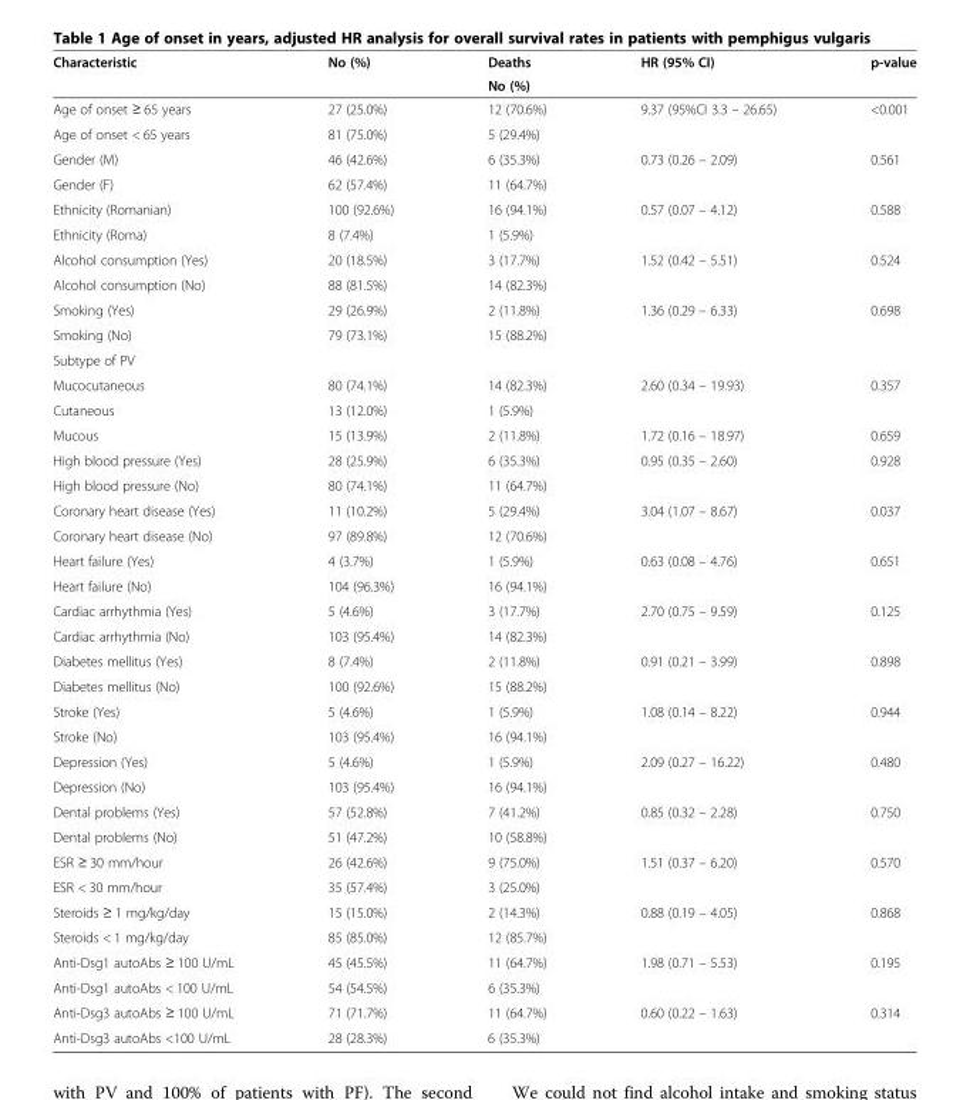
<table><thead><tr><td rowspan="2">Characteristic</td><td rowspan="2">No (%)</td><td rowspan="2">Deaths No (%)</td><td rowspan="2">HR (95% CI)</td><td rowspan="2">p-value</td></tr><tr></tr></thead><tbody><tr><td>Age of onset ≥ 65 years</td><td>27 (25.0%)</td><td>12 (70.6%)</td><td>9.37 (95%CI 3.3 – 26.65)</td><td>&lt;0.001</td></tr><tr><td>Age of onset &lt; 65 years</td><td>81 (75.0%)</td><td>5 (29.4%)</td><td></td><td></td></tr><tr><td>Gender (M)</td><td>46 (42.6%)</td><td>6 (35.3%)</td><td>0.73 (0.26 – 2.09)</td><td>0.561</td></tr><tr><td>Gender (F)</td><td>62 (57.4%)</td><td>11 (64.7%)</td><td></td><td></td></tr><tr><td>Ethnicity (Romanian)</td><td>100 (92.6%)</td><td>16 (94.1%)</td><td>0.57 (0.07 – 4.12)</td><td>0.588</td></tr><tr><td>Ethnicity (Roma)</td><td>8 (7.4%)</td><td>1 (5.9%)</td><td></td><td></td></tr><tr><td>Alcohol consumption (Yes)</td><td>20 (18.5%)</td><td>3 (17.7%)</td><td>1.52 (0.42 – 5.51)</td><td>0.524</td></tr><tr><td>Alcohol consumption (No)</td><td>88 (81.5%)</td><td>14 (82.3%)</td><td></td><td></td></tr><tr><td>Smoking (Yes)</td><td>29 (26.9%)</td><td>2 (11.8%)</td><td>1.36 (0.29 – 6.33)</td><td>0.698</td></tr><tr><td>Smoking (No)</td><td>79 (73.1%)</td><td>15 (88.2%)</td><td></td><td></td></tr><tr><td colspan="5">Subtype of PV</td></tr><tr><td>Mucocutaneous</td><td>80 (74.1%)</td><td>14 (82.3%)</td><td>2.60 (0.34 – 19.93)</td><td>0.357</td></tr><tr><td>Cutaneous</td><td>13 (12.0%)</td><td>1 (5.9%)</td><td></td><td></td></tr><tr><td>Mucous</td><td>15 (13.9%)</td><td>2 (11.8%)</td><td>1.72 (0.16 – 18.97)</td><td>0.659</td></tr><tr><td>High blood pressure (Yes)</td><td>28 (25.9%)</td><td>6 (35.3%)</td><td>0.95 (0.35 – 2.60)</td><td>0.928</td></tr><tr><td>High blood pressure (No)</td><td>80 (74.1%)</td><td>11 (64.7%)</td><td></td><td></td></tr><tr><td>Coronary heart disease (Yes)</td><td>11 (10.2%)</td><td>5 (29.4%)</td><td>3.04 (1.07 – 8.67)</td><td>0.037</td></tr><tr><td>Coronary heart disease (No)</td><td>97 (89.8%)</td><td>12 (70.6%)</td><td></td><td></td></tr><tr><td>Heart failure (Yes)</td><td>4 (3.7%)</td><td>1 (5.9%)</td><td>0.63 (0.08 – 4.76)</td><td>0.651</td></tr><tr><td>Heart failure (No)</td><td>104 (96.3%)</td><td>16 (94.1%)</td><td></td><td></td></tr><tr><td>Cardiac arrhythmia (Yes)</td><td>5 (4.6%)</td><td>3 (17.7%)</td><td>2.70 (0.75 – 9.59)</td><td>0.125</td></tr><tr><td>Cardiac arrhythmia (No)</td><td>103 (95.4%)</td><td>14 (82.3%)</td><td></td><td></td></tr><tr><td>Diabetes mellitus (Yes)</td><td>8 (7.4%)</td><td>2 (11.8%)</td><td>0.91 (0.21 – 3.99)</td><td>0.898</td></tr><tr><td>Diabetes mellitus (No)</td><td>100 (92.6%)</td><td>15 (88.2%)</td><td></td><td></td></tr><tr><td>Stroke (Yes)</td><td>5 (4.6%)</td><td>1 (5.9%)</td><td>1.08 (0.14 – 8.22)</td><td>0.944</td></tr><tr><td>Stroke (No)</td><td>103 (95.4%)</td><td>16 (94.1%)</td><td></td><td></td></tr><tr><td>Depression (Yes)</td><td>5 (4.6%)</td><td>1 (5.9%)</td><td>2.09 (0.27 – 16.22)</td><td>0.480</td></tr><tr><td>Depression (No)</td><td>103 (95.4%)</td><td>16 (94.1%)</td><td></td><td></td></tr><tr><td>Dental problems (Yes)</td><td>57 (52.8%)</td><td>7 (41.2%)</td><td>0.85 (0.32 – 2.28)</td><td>0.750</td></tr><tr><td>Dental problems (No)</td><td>51 (47.2%)</td><td>10 (58.8%)</td><td></td><td></td></tr><tr><td>ESR ≥ 30 mm/hour</td><td>26 (42.6%)</td><td>9 (75.0%)</td><td>1.51 (0.37 – 6.20)</td><td>0.570</td></tr><tr><td>ESR &lt; 30 mm/hour</td><td>35 (57.4%)</td><td>3 (25.0%)</td><td></td><td></td></tr><tr><td>Steroids ≥ 1 mg/kg/day</td><td>15 (15.0%)</td><td>2 (14.3%)</td><td>0.88 (0.19 – 4.05)</td><td>0.868</td></tr><tr><td>Steroids &lt; 1 mg/kg/day</td><td>85 (85.0%)</td><td>12 (85.7%)</td><td></td><td></td></tr><tr><td>Anti-Dsg1 autoAbs ≥ 100 U/mL</td><td>45 (45.5%)</td><td>11 (64.7%)</td><td>1.98 (0.71 – 5.53)</td><td>0.195</td></tr><tr><td>Anti-Dsg1 autoAbs &lt; 100 U/mL</td><td>54 (54.5%)</td><td>6 (35.3%)</td><td></td><td></td></tr><tr><td>Anti-Dsg3 autoAbs ≥ 100 U/mL</td><td>71 (71.7%)</td><td>11 (64.7%)</td><td>0.60 (0.22 – 1.63)</td><td>0.314</td></tr><tr><td>Anti-Dsg3 autoAbs &lt;100 U/mL</td><td>28 (28.3%)</td><td>6 (35.3%)</td><td></td><td></td></tr></tbody></table>